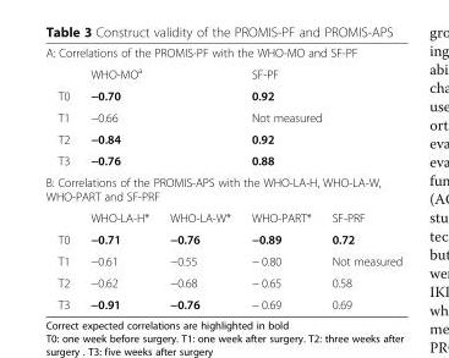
<table><tbody><tr><td colspan="5">A: Correlations of the PROMIS-PF with the WHO-MO and SF-PF</td></tr><tr><td></td><td colspan="2">WHO-MO<sup>a</sup></td><td colspan="2">SF-PF</td></tr><tr><td>T0</td><td colspan="2">−0.70</td><td colspan="2">0.92</td></tr><tr><td>T1</td><td colspan="2">−0.66</td><td colspan="2">Not measured</td></tr><tr><td>T2</td><td colspan="2">−0.84</td><td colspan="2">0.92</td></tr><tr><td>T3</td><td colspan="2">−0.76</td><td colspan="2">0.88</td></tr><tr><td colspan="5">B: Correlations of the PROMIS-APS with the WHO-LA-H, WHO-LA-W, WHO-PART and SF-PRF</td></tr><tr><td></td><td>WHO-LA-H*</td><td>WHO-LA-W*</td><td>WHO-PART*</td><td>SF-PRF</td></tr><tr><td>T0</td><td>−0.71</td><td>−0.76</td><td>−0.89</td><td>0.72</td></tr><tr><td>T1</td><td>−0.61</td><td>−0.55</td><td>− 0.80</td><td>Not measured</td></tr><tr><td>T2</td><td>−0.62</td><td>−0.68</td><td>− 0.65</td><td>0.58</td></tr><tr><td>T3</td><td>−0.91</td><td>−0.76</td><td>− 0.69</td><td>0.69</td></tr></tbody></table>